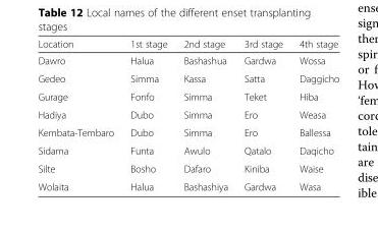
<table><thead><tr><td>Location</td><td>1st stage</td><td>2nd stage</td><td>3rd stage</td><td>4th stage</td></tr></thead><tbody><tr><td>Dawro</td><td>Halua</td><td>Bashashua</td><td>Gardwa</td><td>Wossa</td></tr><tr><td>Gedeo</td><td>Simma</td><td>Kassa</td><td>Satta</td><td>Daggicho</td></tr><tr><td>Gurage</td><td>Fonfo</td><td>Simma</td><td>Teket</td><td>Hiba</td></tr><tr><td>Hadiya</td><td>Dubo</td><td>Simma</td><td>Ero</td><td>Weasa</td></tr><tr><td>Kembata-Tembaro</td><td>Dubo</td><td>Simma</td><td>Ero</td><td>Ballessa</td></tr><tr><td>Sidama</td><td>Funta</td><td>Awulo</td><td>Qatalo</td><td>Daqicho</td></tr><tr><td>Silte</td><td>Bosho</td><td>Dafaro</td><td>Kiniba</td><td>Waise</td></tr><tr><td>Wolaita</td><td>Halua</td><td>Bashashiya</td><td>Gardwa</td><td>Wasa</td></tr></tbody></table>